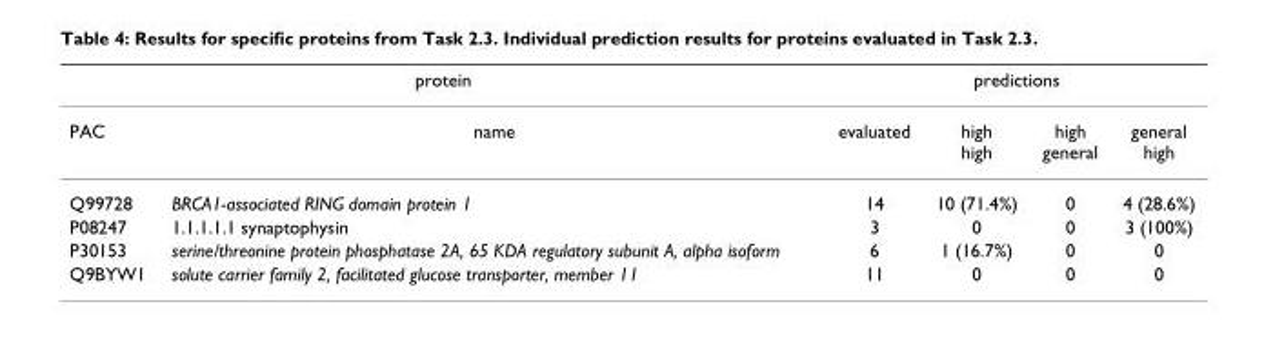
<table><thead><tr><td colspan="2">protein</td><td colspan="4">predictions</td></tr><tr><td>PAC</td><td>name</td><td>evaluated</td><td>high high</td><td>high general</td><td>general high</td></tr></thead><tbody><tr><td>Q99728</td><td>BRCA1-associated RING domain protein 1</td><td>14</td><td>10 (71.4%)</td><td>0</td><td>4 (28.6%)</td></tr><tr><td>P08247</td><td>1.1.1.1.1 synaptophysin</td><td>3</td><td>0</td><td>0</td><td>3 (100%)</td></tr><tr><td>P30153</td><td>serine/threonine protein phosphatase 2A, 65 KDA regulatory subunit A, alpha isoform</td><td>6</td><td>1 (16.7%)</td><td>0</td><td>0</td></tr><tr><td>Q9BYW1</td><td>solute carrier family 2, facilitated glucose transporter, member 11</td><td>11</td><td>0</td><td>0</td><td>0</td></tr></tbody></table>